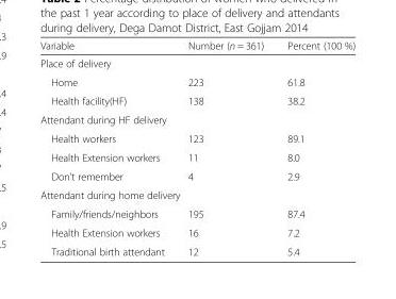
<table><thead><tr><td>Variable</td><td>Number (n = 361)</td><td>Percent (100 %)</td></tr></thead><tbody><tr><td colspan="3">Place of delivery</td></tr><tr><td>Home</td><td>223</td><td>61.8</td></tr><tr><td>Health facility(HF)</td><td>138</td><td>38.2</td></tr><tr><td colspan="3">Attendant during HF delivery</td></tr><tr><td>Health workers</td><td>123</td><td>89.1</td></tr><tr><td>Health Extension workers</td><td>11</td><td>8.0</td></tr><tr><td>Don’t remember</td><td>4</td><td>2.9</td></tr><tr><td colspan="3">Attendant during home delivery</td></tr><tr><td>Family/friends/neighbors</td><td>195</td><td>87.4</td></tr><tr><td>Health Extension workers</td><td>16</td><td>7.2</td></tr><tr><td>Traditional birth attendant</td><td>12</td><td>5.4</td></tr></tbody></table>